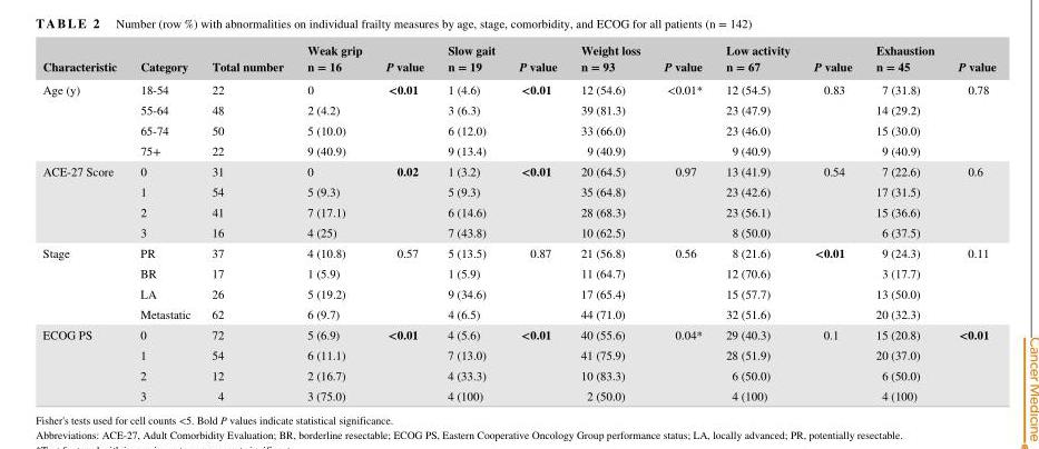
<table><thead><tr><td>Characteristic</td><td>Category</td><td>Total number</td><td>Weak grip n = 16</td><td>P value</td><td>Slow gait n = 19</td><td>P value</td><td>Weight loss n = 93</td><td>P value</td><td>Low activity n = 67</td><td>P value</td><td>Exhaustion n = 45</td><td>P value</td></tr></thead><tbody><tr><td rowspan="4">Age (y)</td><td>18‐54</td><td>22</td><td>0</td><td>&lt;0.01</td><td>1 (4.6)</td><td>&lt;0.01</td><td>12 (54.6)</td><td>&lt;0.01*</td><td>12 (54.5)</td><td>0.83</td><td>7 (31.8)</td><td>0.78</td></tr><tr><td>55‐64</td><td>48</td><td>2 (4.2)</td><td></td><td>3 (6.3)</td><td></td><td>39 (81.3)</td><td></td><td>23 (47.9)</td><td></td><td>14 (29.2)</td><td></td></tr><tr><td>65‐74</td><td>50</td><td>5 (10.0)</td><td></td><td>6 (12.0)</td><td></td><td>33 (66.0)</td><td></td><td>23 (46.0)</td><td></td><td>15 (30.0)</td><td></td></tr><tr><td>75+</td><td>22</td><td>9 (40.9)</td><td></td><td>9 (13.4)</td><td></td><td>9 (40.9)</td><td></td><td>9 (40.9)</td><td></td><td>9 (40.9)</td><td></td></tr><tr><td rowspan="4">ACE‐27 Score</td><td>0</td><td>31</td><td>0</td><td>0.02</td><td>1 (3.2)</td><td>&lt;0.01</td><td>20 (64.5)</td><td>0.97</td><td>13 (41.9)</td><td>0.54</td><td>7 (22.6)</td><td>0.6</td></tr><tr><td>1</td><td>54</td><td>5 (9.3)</td><td></td><td>5 (9.3)</td><td></td><td>35 (64.8)</td><td></td><td>23 (42.6)</td><td></td><td>17 (31.5)</td><td></td></tr><tr><td>2</td><td>41</td><td>7 (17.1)</td><td></td><td>6 (14.6)</td><td></td><td>28 (68.3)</td><td></td><td>23 (56.1)</td><td></td><td>15 (36.6)</td><td></td></tr><tr><td>3</td><td>16</td><td>4 (25)</td><td></td><td>7 (43.8)</td><td></td><td>10 (62.5)</td><td></td><td>8 (50.0)</td><td></td><td>6 (37.5)</td><td></td></tr><tr><td rowspan="4">Stage</td><td>PR</td><td>37</td><td>4 (10.8)</td><td>0.57</td><td>5 (13.5)</td><td>0.87</td><td>21 (56.8)</td><td>0.56</td><td>8 (21.6)</td><td>&lt;0.01</td><td>9 (24.3)</td><td>0.11</td></tr><tr><td>BR</td><td>17</td><td>1 (5.9)</td><td></td><td>1 (5.9)</td><td></td><td>11 (64.7)</td><td></td><td>12 (70.6)</td><td></td><td>3 (17.7)</td><td></td></tr><tr><td>LA</td><td>26</td><td>5 (19.2)</td><td></td><td>9 (34.6)</td><td></td><td>17 (65.4)</td><td></td><td>15 (57.7)</td><td></td><td>13 (50.0)</td><td></td></tr><tr><td>Metastatic</td><td>62</td><td>6 (9.7)</td><td></td><td>4 (6.5)</td><td></td><td>44 (71.0)</td><td></td><td>32 (51.6)</td><td></td><td>20 (32.3)</td><td></td></tr><tr><td rowspan="4">ECOG PS</td><td>0</td><td>72</td><td>5 (6.9)</td><td>&lt;0.01</td><td>4 (5.6)</td><td>&lt;0.01</td><td>40 (55.6)</td><td>0.04*</td><td>29 (40.3)</td><td>0.1</td><td>15 (20.8)</td><td>&lt;0.01</td></tr><tr><td>1</td><td>54</td><td>6 (11.1)</td><td></td><td>7 (13.0)</td><td></td><td>41 (75.9)</td><td></td><td>28 (51.9)</td><td></td><td>20 (37.0)</td><td></td></tr><tr><td>2</td><td>12</td><td>2 (16.7)</td><td></td><td>4 (33.3)</td><td></td><td>10 (83.3)</td><td></td><td>6 (50.0)</td><td></td><td>6 (50.0)</td><td></td></tr><tr><td>3</td><td>4</td><td>3 (75.0)</td><td></td><td>4 (100)</td><td></td><td>2 (50.0)</td><td></td><td>4 (100)</td><td></td><td>4 (100)</td><td></td></tr></tbody></table>